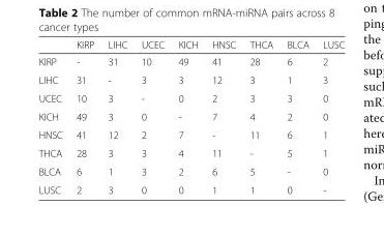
<table><thead><tr><td></td><td>KIRP</td><td>LIHC</td><td>UCEC</td><td>KICH</td><td>HNSC</td><td>THCA</td><td>BLCA</td><td>LUSC</td></tr></thead><tbody><tr><td>KIRP</td><td>-</td><td>31</td><td>10</td><td>49</td><td>41</td><td>28</td><td>6</td><td>2</td></tr><tr><td>LIHC</td><td>31</td><td>-</td><td>3</td><td>3</td><td>12</td><td>3</td><td>1</td><td>3</td></tr><tr><td>UCEC</td><td>10</td><td>3</td><td>-</td><td>0</td><td>2</td><td>3</td><td>3</td><td>0</td></tr><tr><td>KICH</td><td>49</td><td>3</td><td>0</td><td>-</td><td>7</td><td>4</td><td>2</td><td>0</td></tr><tr><td>HNSC</td><td>41</td><td>12</td><td>2</td><td>7</td><td>-</td><td>11</td><td>6</td><td>1</td></tr><tr><td>THCA</td><td>28</td><td>3</td><td>3</td><td>4</td><td>11</td><td>-</td><td>5</td><td>1</td></tr><tr><td>BLCA</td><td>6</td><td>1</td><td>3</td><td>2</td><td>6</td><td>5</td><td>-</td><td>0</td></tr><tr><td>LUSC</td><td>2</td><td>3</td><td>0</td><td>0</td><td>1</td><td>1</td><td>0</td><td>-</td></tr></tbody></table>